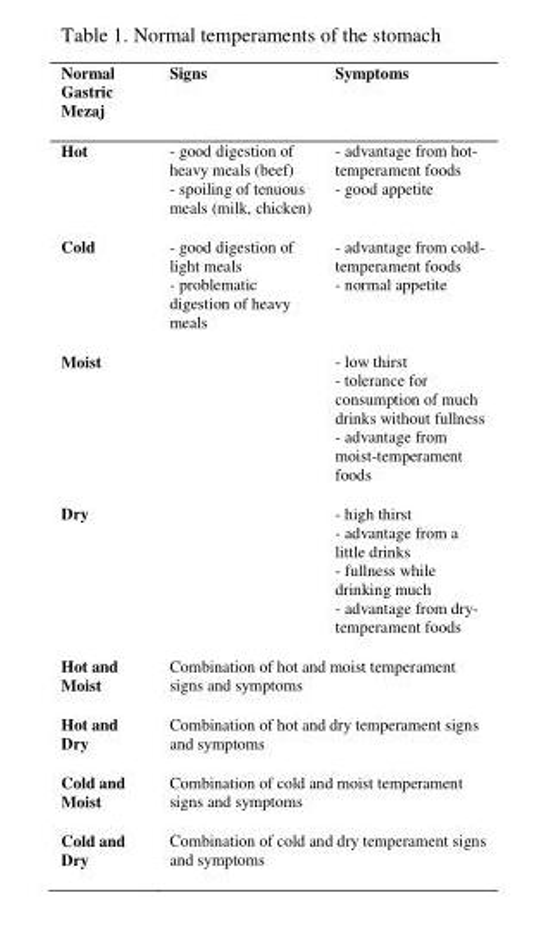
<table><thead><tr><td>Normal Gastric Mezaj</td><td>Signs</td><td>Symptoms</td></tr></thead><tbody><tr><td>Hot</td><td>- good digestion of heavy meals (beef) - spoiling of tenuous meals (milk, chicken)</td><td>- advantage from hot- temperament foods - good appetite</td></tr><tr><td>Cold</td><td>- good digestion of light meals - problematic digestion of heavy meals</td><td>- advantage from cold- temperament foods - normal appetite</td></tr><tr><td>Moist</td><td></td><td>- low thirst - tolerance for consumption of much drinks without fullness - advantage from moist-temperament foods</td></tr><tr><td>Dry</td><td></td><td>- high thirst - advantage from a little drinks - fullness while drinking much - advantage from dry- temperament foods</td></tr><tr><td>Hot and Moist</td><td colspan="2">Combination of hot and moist temperament signs and symptoms</td></tr><tr><td>Hot and Dry</td><td colspan="2">Combination of hot and dry temperament signs and symptoms</td></tr><tr><td>Cold and Moist</td><td colspan="2">Combination of cold and moist temperament signs and symptoms</td></tr><tr><td>Cold and Dry</td><td colspan="2">Combination of cold and dry temperament signs and symptoms</td></tr></tbody></table>